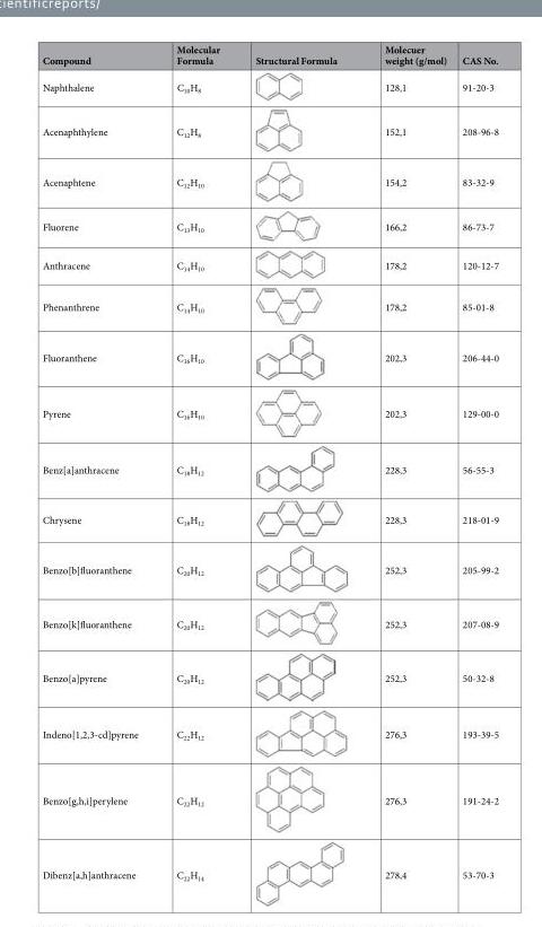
<table><thead><tr><td>Compound</td><td>Molecular Formula</td><td>Structural Formula</td><td>Molecuer weight (g/mol)</td><td>CAS No.</td></tr></thead><tbody><tr><td>Naphthalene</td><td>C<sub>10</sub>H<sub>8</sub></td><td></td><td>128,1</td><td>91-20-3</td></tr><tr><td>Acenaphthylene</td><td>C<sub>12</sub>H<sub>8</sub></td><td></td><td>152,1</td><td>208-96-8</td></tr><tr><td>Acenaphtene</td><td>C<sub>12</sub>H<sub>10</sub></td><td></td><td>154,2</td><td>83-32-9</td></tr><tr><td>Fluorene</td><td>C<sub>13</sub>H<sub>10</sub></td><td></td><td>166,2</td><td>86-73-7</td></tr><tr><td>Anthracene</td><td>C<sub>14</sub>H<sub>10</sub></td><td></td><td>178,2</td><td>120-12-7</td></tr><tr><td>Phenanthrene</td><td>C<sub>14</sub>H<sub>10</sub></td><td></td><td>178,2</td><td>85-01-8</td></tr><tr><td>Fluoranthene</td><td>C<sub>16</sub>H<sub>10</sub></td><td></td><td>202,3</td><td>206-44-0</td></tr><tr><td>Pyrene</td><td>C<sub>16</sub>H<sub>10</sub></td><td></td><td>202,3</td><td>129-00-0</td></tr><tr><td>Benz[a]anthracene</td><td>C<sub>18</sub>H<sub>12</sub></td><td></td><td>228,3</td><td>56-55-3</td></tr><tr><td>Chrysene</td><td>C<sub>18</sub>H<sub>12</sub></td><td></td><td>228,3</td><td>218-01-9</td></tr><tr><td>Benzo[b]fluoranthene</td><td>C<sub>20</sub>H<sub>12</sub></td><td></td><td>252,3</td><td>205-99-2</td></tr><tr><td>Benzo[k]fluoranthene</td><td>C<sub>20</sub>H<sub>12</sub></td><td></td><td>252,3</td><td>207-08-9</td></tr><tr><td>Benzo[a]pyrene</td><td>C<sub>20</sub>H<sub>12</sub></td><td></td><td>252,3</td><td>50-32-8</td></tr><tr><td>Indeno[1,2,3-cd]pyrene</td><td>C<sub>22</sub>H<sub>12</sub></td><td></td><td>276,3</td><td>193-39-5</td></tr><tr><td>Benzo[g,h,i]perylene</td><td>C<sub>22</sub>H<sub>12</sub></td><td></td><td>276,3</td><td>191-24-2</td></tr><tr><td>Dibenz[a,h]anthracene</td><td>C<sub>22</sub>H<sub>14</sub></td><td></td><td>278,4</td><td>53-70-3</td></tr></tbody></table>